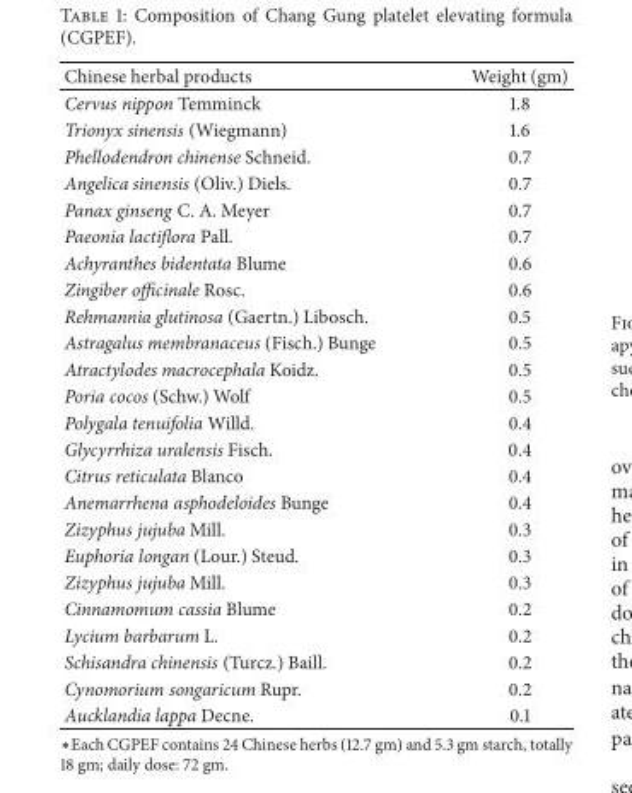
<table><thead><tr><td>Chinese herbal products</td><td>Weight (gm)</td></tr></thead><tbody><tr><td>Cervus nippon Temminck</td><td>1.8</td></tr><tr><td>Trionyx sinensis (Wiegmann)</td><td>1.6</td></tr><tr><td>Phellodendron chinense Schneid.</td><td>0.7</td></tr><tr><td>Angelica sinensis (Oliv.) Diels.</td><td>0.7</td></tr><tr><td>Panax ginseng C. A. Meyer</td><td>0.7</td></tr><tr><td>Paeonia lactiflora Pall.</td><td>0.7</td></tr><tr><td>Achyranthes bidentata Blume</td><td>0.6</td></tr><tr><td>Zingiber officinale Rosc.</td><td>0.6</td></tr><tr><td>Rehmannia glutinosa (Gaertn.) Libosch.</td><td>0.5</td></tr><tr><td>Astragalus membranaceus (Fisch.) Bunge</td><td>0.5</td></tr><tr><td>Atractylodes macrocephala Koidz.</td><td>0.5</td></tr><tr><td>Poria cocos (Schw.) Wolf</td><td>0.5</td></tr><tr><td>Polygala tenuifolia Willd.</td><td>0.4</td></tr><tr><td>Glycyrrhiza uralensis Fisch.</td><td>0.4</td></tr><tr><td>Citrus reticulata Blanco</td><td>0.4</td></tr><tr><td>Anemarrhena asphodeloides Bunge</td><td>0.4</td></tr><tr><td>Zizyphus jujuba Mill.</td><td>0.3</td></tr><tr><td>Euphoria longan (Lour.) Steud.</td><td>0.3</td></tr><tr><td>Zizyphus jujuba Mill.</td><td>0.3</td></tr><tr><td>Cinnamomum cassia Blume</td><td>0.2</td></tr><tr><td>Lycium barbarum L.</td><td>0.2</td></tr><tr><td>Schisandra chinensis (Turcz.) Baill.</td><td>0.2</td></tr><tr><td>Cynomorium songaricum Rupr.</td><td>0.2</td></tr><tr><td>Aucklandia lappa Decne.</td><td>0.1</td></tr></tbody></table>